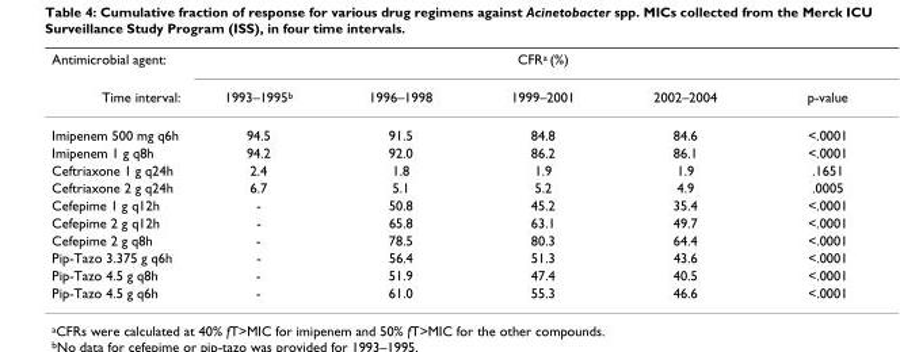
<table><thead><tr><td rowspan="2">Antimicrobial agent: Time interval:</td><td colspan="5">CFR<sup>a</sup> (%)</td></tr><tr><td>1993–1995<sup>b</sup></td><td>1996–1998</td><td>1999–2001</td><td>2002–2004</td><td>p-value</td></tr></thead><tbody><tr><td>Imipenem 500 mg q6h</td><td>94.5</td><td>91.5</td><td>84.8</td><td>84.6</td><td>&lt;.0001</td></tr><tr><td>Imipenem 1 g q8h</td><td>94.2</td><td>92.0</td><td>86.2</td><td>86.1</td><td>&lt;.0001</td></tr><tr><td>Ceftriaxone 1 g q24h</td><td>2.4</td><td>1.8</td><td>1.9</td><td>1.9</td><td>.1651</td></tr><tr><td>Ceftriaxone 2 g q24h</td><td>6.7</td><td>5.1</td><td>5.2</td><td>4.9</td><td>.0005</td></tr><tr><td>Cefepime 1 g q12h</td><td>-</td><td>50.8</td><td>45.2</td><td>35.4</td><td>&lt;.0001</td></tr><tr><td>Cefepime 2 g q12h</td><td>-</td><td>65.8</td><td>63.1</td><td>49.7</td><td>&lt;.0001</td></tr><tr><td>Cefepime 2 g q8h</td><td>-</td><td>78.5</td><td>80.3</td><td>64.4</td><td>&lt;.0001</td></tr><tr><td>Pip-Tazo 3.375 g q6h</td><td>-</td><td>56.4</td><td>51.3</td><td>43.6</td><td>&lt;.0001</td></tr><tr><td>Pip-Tazo 4.5 g q8h</td><td>-</td><td>51.9</td><td>47.4</td><td>40.5</td><td>&lt;.0001</td></tr><tr><td>Pip-Tazo 4.5 g q6h</td><td>-</td><td>61.0</td><td>55.3</td><td>46.6</td><td>&lt;.0001</td></tr></tbody></table>